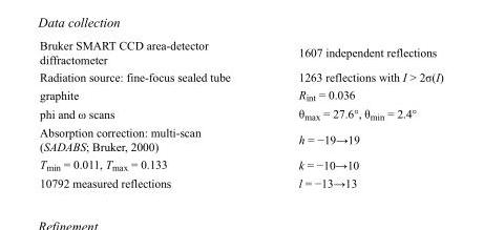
<table><tbody><tr><td>Bruker SMART CCD area-detector diffractometer</td><td>1607 independent reflections</td></tr><tr><td>Radiation source: fine-focus sealed tube</td><td>1263 reflections with I &gt; 2σ(I)</td></tr><tr><td>graphite</td><td>R<sub>int</sub> = 0.036</td></tr><tr><td>phi and ω scans</td><td>θ<sub>max</sub> = 27.6°, θ<sub>min</sub> = 2.4°</td></tr><tr><td>Absorption correction: multi-scan (SADABS; Bruker, 2000)</td><td>h = −19→19</td></tr><tr><td>T<sub>min</sub> = 0.011, T<sub>max</sub> = 0.133</td><td>k = −10→10</td></tr><tr><td>10792 measured reflections</td><td>l = −13→13</td></tr></tbody></table>